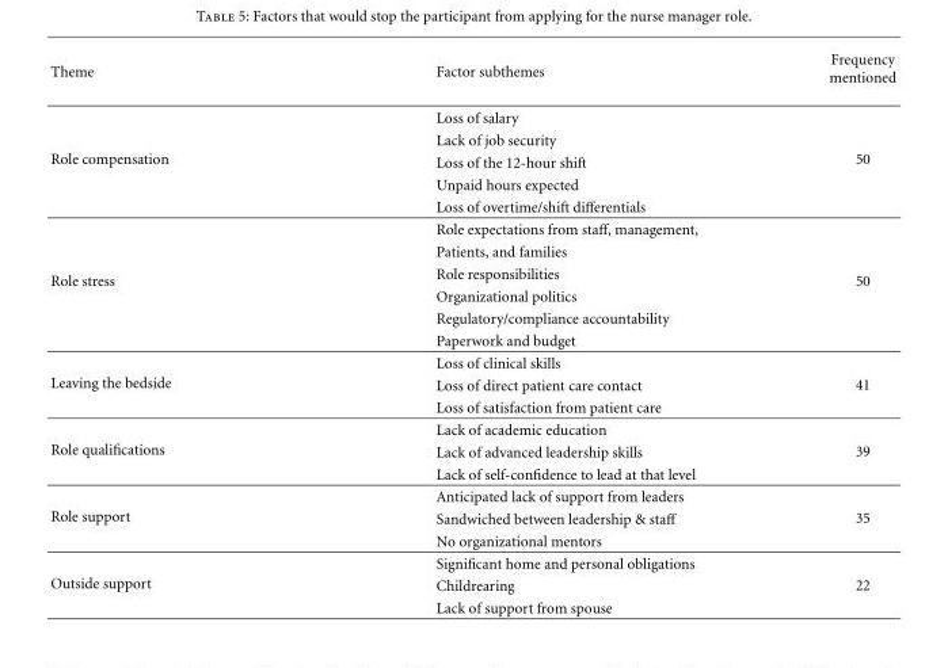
<table><thead><tr><td>Theme</td><td>Factor subthemes</td><td>Frequency mentioned</td></tr></thead><tbody><tr><td rowspan="5">Role compensation</td><td>Loss of salary</td><td rowspan="5">50</td></tr><tr><td>Lack of job security</td></tr><tr><td>Loss of the 12-hour shift</td></tr><tr><td>Unpaid hours expected</td></tr><tr><td>Loss of overtime/shift differentials</td></tr><tr><td rowspan="6">Role stress</td><td>Role expectations from staff, management,</td><td rowspan="6">50</td></tr><tr><td>Patients, and families</td></tr><tr><td>Role responsibilities</td></tr><tr><td>Organizational politics</td></tr><tr><td>Regulatory/compliance accountability</td></tr><tr><td>Paperwork and budget</td></tr><tr><td rowspan="3">Leaving the bedside</td><td>Loss of clinical skills</td><td rowspan="3">41</td></tr><tr><td>Loss of direct patient care contact</td></tr><tr><td>Loss of satisfaction from patient care</td></tr><tr><td rowspan="3">Role qualifications</td><td>Lack of academic education</td><td rowspan="3">39</td></tr><tr><td>Lack of advanced leadership skills</td></tr><tr><td>Lack of self-confidence to lead at that level</td></tr><tr><td rowspan="3">Role support</td><td>Anticipated lack of support from leaders</td><td rowspan="3">35</td></tr><tr><td>Sandwiched between leadership &amp; staff</td></tr><tr><td>No organizational mentors</td></tr><tr><td rowspan="3">Outside support</td><td>Significant home and personal obligations</td><td rowspan="2">22</td></tr><tr><td>Childrearing</td></tr><tr><td>Lack of support from spouse</td><td></td></tr></tbody></table>